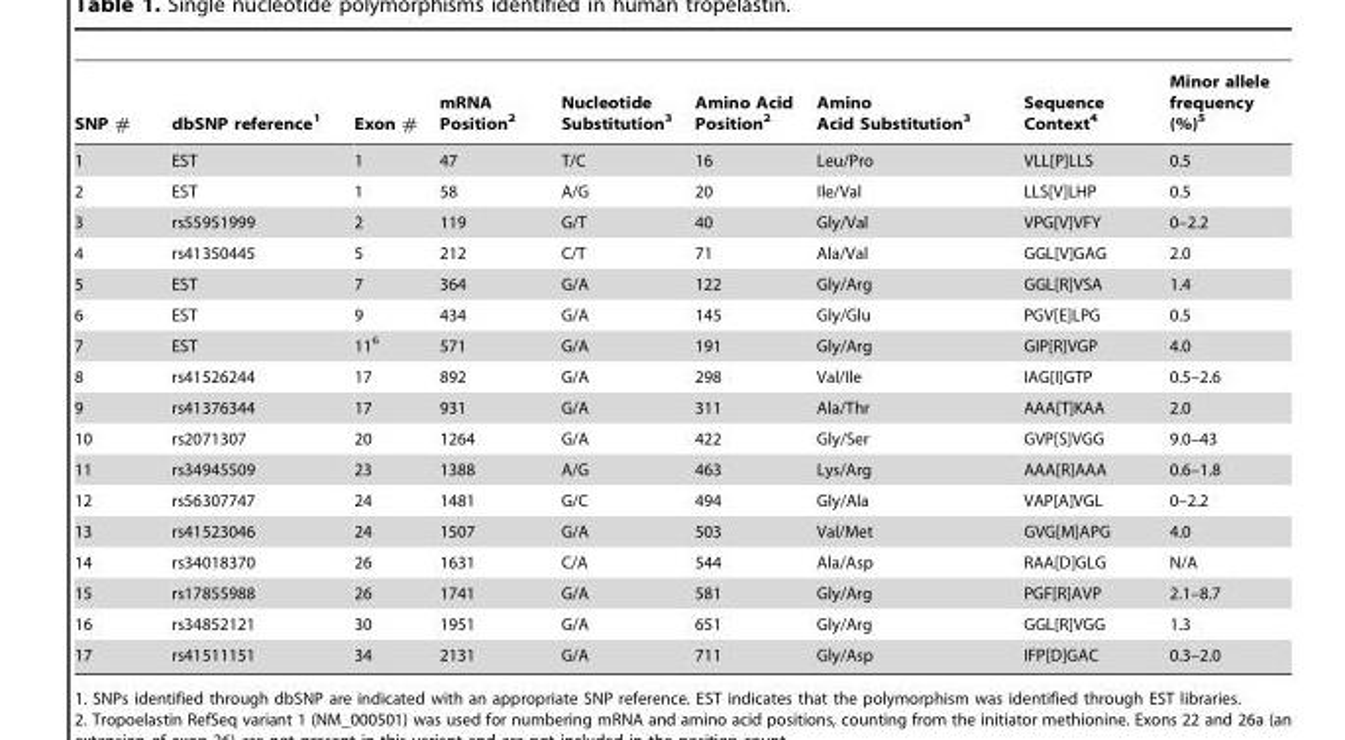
<table><thead><tr><td>SNP #</td><td>dbSNP reference<sup>1</sup></td><td>Exon #</td><td>mRNA Position<sup>2</sup></td><td>Nucleotide Substitution<sup>3</sup></td><td>Amino Acid Position<sup>2</sup></td><td>Amino Acid Substitution<sup>3</sup></td><td>Sequence Context<sup>4</sup></td><td>Minor allele frequency (%)<sup>5</sup></td></tr></thead><tbody><tr><td>1</td><td>EST</td><td>1</td><td>47</td><td>T/C</td><td>16</td><td>Leu/Pro</td><td>VLL[P]LLS</td><td>0.5</td></tr><tr><td>2</td><td>EST</td><td>1</td><td>58</td><td>A/G</td><td>20</td><td>Ile/Val</td><td>LLS[V]LHP</td><td>0.5</td></tr><tr><td>3</td><td>rs55951999</td><td>2</td><td>119</td><td>G/T</td><td>40</td><td>Gly/Val</td><td>VPG[V]VFY</td><td>0–2.2</td></tr><tr><td>4</td><td>rs41350445</td><td>5</td><td>212</td><td>C/T</td><td>71</td><td>Ala/Val</td><td>GGL[V]GAG</td><td>2.0</td></tr><tr><td>5</td><td>EST</td><td>7</td><td>364</td><td>G/A</td><td>122</td><td>Gly/Arg</td><td>GGL[R]VSA</td><td>1.4</td></tr><tr><td>6</td><td>EST</td><td>9</td><td>434</td><td>G/A</td><td>145</td><td>Gly/Glu</td><td>PGV[E]LPG</td><td>0.5</td></tr><tr><td>7</td><td>EST</td><td>11<sup>6</sup></td><td>571</td><td>G/A</td><td>191</td><td>Gly/Arg</td><td>GIP[R]VGP</td><td>4.0</td></tr><tr><td>8</td><td>rs41526244</td><td>17</td><td>892</td><td>G/A</td><td>298</td><td>Val/Ile</td><td>IAG[I]GTP</td><td>0.5–2.6</td></tr><tr><td>9</td><td>rs41376344</td><td>17</td><td>931</td><td>G/A</td><td>311</td><td>Ala/Thr</td><td>AAA[T]KAA</td><td>2.0</td></tr><tr><td>10</td><td>rs2071307</td><td>20</td><td>1264</td><td>G/A</td><td>422</td><td>Gly/Ser</td><td>GVP[S]VGG</td><td>9.0–43</td></tr><tr><td>11</td><td>rs34945509</td><td>23</td><td>1388</td><td>A/G</td><td>463</td><td>Lys/Arg</td><td>AAA[R]AAA</td><td>0.6–1.8</td></tr><tr><td>12</td><td>rs56307747</td><td>24</td><td>1481</td><td>G/C</td><td>494</td><td>Gly/Ala</td><td>VAP[A]VGL</td><td>0–2.2</td></tr><tr><td>13</td><td>rs41523046</td><td>24</td><td>1507</td><td>G/A</td><td>503</td><td>Val/Met</td><td>GVG[M]APG</td><td>4.0</td></tr><tr><td>14</td><td>rs34018370</td><td>26</td><td>1631</td><td>C/A</td><td>544</td><td>Ala/Asp</td><td>RAA[D]GLG</td><td>N/A</td></tr><tr><td>15</td><td>rs17855988</td><td>26</td><td>1741</td><td>G/A</td><td>581</td><td>Gly/Arg</td><td>PGF[R]AVP</td><td>2.1–8.7</td></tr><tr><td>16</td><td>rs34852121</td><td>30</td><td>1951</td><td>G/A</td><td>651</td><td>Gly/Arg</td><td>GGL[R]VGG</td><td>1.3</td></tr><tr><td>17</td><td>rs41511151</td><td>34</td><td>2131</td><td>G/A</td><td>711</td><td>Gly/Asp</td><td>IFP[D]GAC</td><td>0.3–2.0</td></tr></tbody></table>